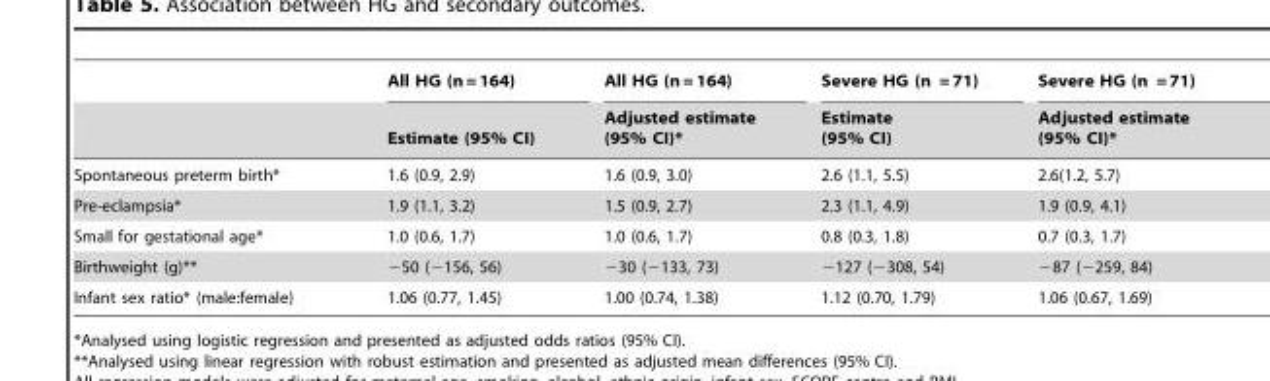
<table><thead><tr><td rowspan="2"></td><td rowspan="2">All HG (n = 164) Estimate (95% CI)</td><td rowspan="2">All HG (n = 164) Adjusted estimate (95% CI)*</td><td rowspan="2">Severe HG (n = 71) Estimate (95% CI)</td><td rowspan="2">Severe HG (n = 71) Adjusted estimate (95% CI)*</td></tr><tr></tr></thead><tbody><tr><td>Spontaneous preterm birth*</td><td>1.6 (0.9, 2.9)</td><td>1.6 (0.9, 3.0)</td><td>2.6 (1.1, 5.5)</td><td>2.6(1.2, 5.7)</td></tr><tr><td>Pre-eclampsia*</td><td>1.9 (1.1, 3.2)</td><td>1.5 (0.9, 2.7)</td><td>2.3 (1.1, 4.9)</td><td>1.9 (0.9, 4.1)</td></tr><tr><td>Small for gestational age*</td><td>1.0 (0.6, 1.7)</td><td>1.0 (0.6, 1.7)</td><td>0.8 (0.3, 1.8)</td><td>0.7 (0.3, 1.7)</td></tr><tr><td>Birthweight (g)**</td><td>−50 (−156, 56)</td><td>−30 (−133, 73)</td><td>−127 (−308, 54)</td><td>−87 (−259, 84)</td></tr><tr><td>Infant sex ratio* (male:female)</td><td>1.06 (0.77, 1.45)</td><td>1.00 (0.74, 1.38)</td><td>1.12 (0.70, 1.79)</td><td>1.06 (0.67, 1.69)</td></tr></tbody></table>